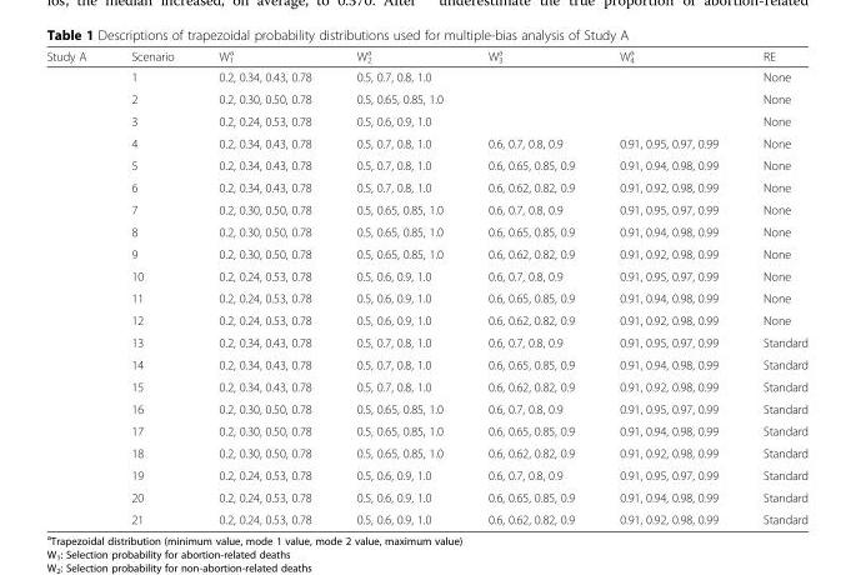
<table><thead><tr><td>Study A</td><td>Scenario</td><td>W<sub>1</sub> <sup>a</sup></td><td>W<sub>2</sub> <sup>a</sup></td><td>W<sub>3</sub> <sup>a</sup></td><td>W<sub>4</sub> <sup>a</sup></td><td>RE</td></tr></thead><tbody><tr><td></td><td>1</td><td>0.2, 0.34, 0.43, 0.78</td><td>0.5, 0.7, 0.8, 1.0</td><td></td><td></td><td>None</td></tr><tr><td></td><td>2</td><td>0.2, 0.30, 0.50, 0.78</td><td>0.5, 0.65, 0.85, 1.0</td><td></td><td></td><td>None</td></tr><tr><td></td><td>3</td><td>0.2, 0.24, 0.53, 0.78</td><td>0.5, 0.6, 0.9, 1.0</td><td></td><td></td><td>None</td></tr><tr><td></td><td>4</td><td>0.2, 0.34, 0.43, 0.78</td><td>0.5, 0.7, 0.8, 1.0</td><td>0.6, 0.7, 0.8, 0.9</td><td>0.91, 0.95, 0.97, 0.99</td><td>None</td></tr><tr><td></td><td>5</td><td>0.2, 0.34, 0.43, 0.78</td><td>0.5, 0.7, 0.8, 1.0</td><td>0.6, 0.65, 0.85, 0.9</td><td>0.91, 0.94, 0.98, 0.99</td><td>None</td></tr><tr><td></td><td>6</td><td>0.2, 0.34, 0.43, 0.78</td><td>0.5, 0.7, 0.8, 1.0</td><td>0.6, 0.62, 0.82, 0.9</td><td>0.91, 0.92, 0.98, 0.99</td><td>None</td></tr><tr><td></td><td>7</td><td>0.2, 0.30, 0.50, 0.78</td><td>0.5, 0.65, 0.85, 1.0</td><td>0.6, 0.7, 0.8, 0.9</td><td>0.91, 0.95, 0.97, 0.99</td><td>None</td></tr><tr><td></td><td>8</td><td>0.2, 0.30, 0.50, 0.78</td><td>0.5, 0.65, 0.85, 1.0</td><td>0.6, 0.65, 0.85, 0.9</td><td>0.91, 0.94, 0.98, 0.99</td><td>None</td></tr><tr><td></td><td>9</td><td>0.2, 0.30, 0.50, 0.78</td><td>0.5, 0.65, 0.85, 1.0</td><td>0.6, 0.62, 0.82, 0.9</td><td>0.91, 0.92, 0.98, 0.99</td><td>None</td></tr><tr><td></td><td>10</td><td>0.2, 0.24, 0.53, 0.78</td><td>0.5, 0.6, 0.9, 1.0</td><td>0.6, 0.7, 0.8, 0.9</td><td>0.91, 0.95, 0.97, 0.99</td><td>None</td></tr><tr><td></td><td>11</td><td>0.2, 0.24, 0.53, 0.78</td><td>0.5, 0.6, 0.9, 1.0</td><td>0.6, 0.65, 0.85, 0.9</td><td>0.91, 0.94, 0.98, 0.99</td><td>None</td></tr><tr><td></td><td>12</td><td>0.2, 0.24, 0.53, 0.78</td><td>0.5, 0.6, 0.9, 1.0</td><td>0.6, 0.62, 0.82, 0.9</td><td>0.91, 0.92, 0.98, 0.99</td><td>None</td></tr><tr><td></td><td>13</td><td>0.2, 0.34, 0.43, 0.78</td><td>0.5, 0.7, 0.8, 1.0</td><td>0.6, 0.7, 0.8, 0.9</td><td>0.91, 0.95, 0.97, 0.99</td><td>Standard</td></tr><tr><td></td><td>14</td><td>0.2, 0.34, 0.43, 0.78</td><td>0.5, 0.7, 0.8, 1.0</td><td>0.6, 0.65, 0.85, 0.9</td><td>0.91, 0.94, 0.98, 0.99</td><td>Standard</td></tr><tr><td></td><td>15</td><td>0.2, 0.34, 0.43, 0.78</td><td>0.5, 0.7, 0.8, 1.0</td><td>0.6, 0.62, 0.82, 0.9</td><td>0.91, 0.92, 0.98, 0.99</td><td>Standard</td></tr><tr><td></td><td>16</td><td>0.2, 0.30, 0.50, 0.78</td><td>0.5, 0.65, 0.85, 1.0</td><td>0.6, 0.7, 0.8, 0.9</td><td>0.91, 0.95, 0.97, 0.99</td><td>Standard</td></tr><tr><td></td><td>17</td><td>0.2, 0.30, 0.50, 0.78</td><td>0.5, 0.65, 0.85, 1.0</td><td>0.6, 0.65, 0.85, 0.9</td><td>0.91, 0.94, 0.98, 0.99</td><td>Standard</td></tr><tr><td></td><td>18</td><td>0.2, 0.30, 0.50, 0.78</td><td>0.5, 0.65, 0.85, 1.0</td><td>0.6, 0.62, 0.82, 0.9</td><td>0.91, 0.92, 0.98, 0.99</td><td>Standard</td></tr><tr><td></td><td>19</td><td>0.2, 0.24, 0.53, 0.78</td><td>0.5, 0.6, 0.9, 1.0</td><td>0.6, 0.7, 0.8, 0.9</td><td>0.91, 0.95, 0.97, 0.99</td><td>Standard</td></tr><tr><td></td><td>20</td><td>0.2, 0.24, 0.53, 0.78</td><td>0.5, 0.6, 0.9, 1.0</td><td>0.6, 0.65, 0.85, 0.9</td><td>0.91, 0.94, 0.98, 0.99</td><td>Standard</td></tr><tr><td></td><td>21</td><td>0.2, 0.24, 0.53, 0.78</td><td>0.5, 0.6, 0.9, 1.0</td><td>0.6, 0.62, 0.82, 0.9</td><td>0.91, 0.92, 0.98, 0.99</td><td>Standard</td></tr></tbody></table>